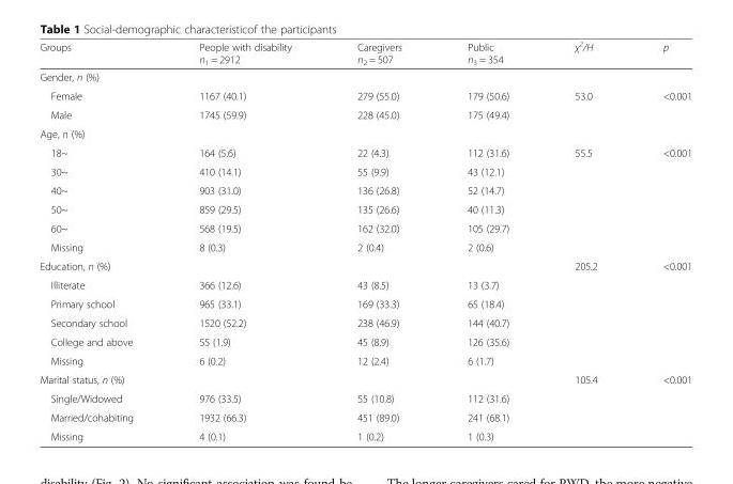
<table><thead><tr><td>Groups</td><td>People with disability n<sub>1</sub> = 2912</td><td>Caregivers n<sub>2</sub> = 507</td><td>Public n<sub>3</sub> = 354</td><td>χ<sup>2</sup>/H</td><td>p</td></tr></thead><tbody><tr><td colspan="6">Gender, n (%)</td></tr><tr><td>Female</td><td>1167 (40.1)</td><td>279 (55.0)</td><td>179 (50.6)</td><td>53.0</td><td>&lt;0.001</td></tr><tr><td>Male</td><td>1745 (59.9)</td><td>228 (45.0)</td><td>175 (49.4)</td><td></td><td></td></tr><tr><td colspan="6">Age, n (%)</td></tr><tr><td>18~</td><td>164 (5.6)</td><td>22 (4.3)</td><td>112 (31.6)</td><td>55.5</td><td>&lt;0.001</td></tr><tr><td>30~</td><td>410 (14.1)</td><td>55 (9.9)</td><td>43 (12.1)</td><td></td><td></td></tr><tr><td>40~</td><td>903 (31.0)</td><td>136 (26.8)</td><td>52 (14.7)</td><td></td><td></td></tr><tr><td>50~</td><td>859 (29.5)</td><td>135 (26.6)</td><td>40 (11.3)</td><td></td><td></td></tr><tr><td>60~</td><td>568 (19.5)</td><td>162 (32.0)</td><td>105 (29.7)</td><td></td><td></td></tr><tr><td>Missing</td><td>8 (0.3)</td><td>2 (0.4)</td><td>2 (0.6)</td><td></td><td></td></tr><tr><td>Education, n (%)</td><td></td><td></td><td></td><td>205.2</td><td>&lt;0.001</td></tr><tr><td>Illiterate</td><td>366 (12.6)</td><td>43 (8.5)</td><td>13 (3.7)</td><td></td><td></td></tr><tr><td>Primary school</td><td>965 (33.1)</td><td>169 (33.3)</td><td>65 (18.4)</td><td></td><td></td></tr><tr><td>Secondary school</td><td>1520 (52.2)</td><td>238 (46.9)</td><td>144 (40.7)</td><td></td><td></td></tr><tr><td>College and above</td><td>55 (1.9)</td><td>45 (8.9)</td><td>126 (35.6)</td><td></td><td></td></tr><tr><td>Missing</td><td>6 (0.2)</td><td>12 (2.4)</td><td>6 (1.7)</td><td></td><td></td></tr><tr><td>Marital status, n (%)</td><td></td><td></td><td></td><td>105.4</td><td>&lt;0.001</td></tr><tr><td>Single/Widowed</td><td>976 (33.5)</td><td>55 (10.8)</td><td>112 (31.6)</td><td></td><td></td></tr><tr><td>Married/cohabiting</td><td>1932 (66.3)</td><td>451 (89.0)</td><td>241 (68.1)</td><td></td><td></td></tr><tr><td>Missing</td><td>4 (0.1)</td><td>1 (0.2)</td><td>1 (0.3)</td><td></td><td></td></tr></tbody></table>